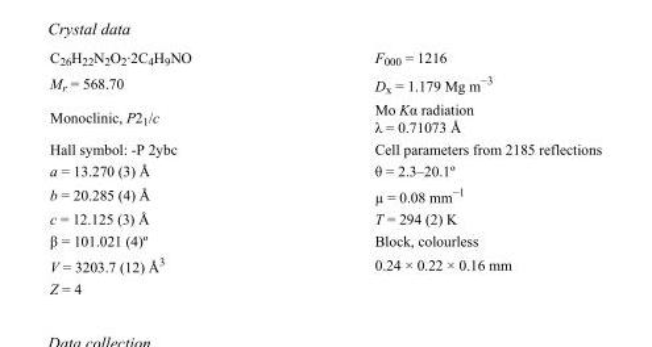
<table><tbody><tr><td>C<sub>26</sub>H<sub>22</sub>N<sub>2</sub>O<sub>2</sub>·2C<sub>4</sub>H<sub>9</sub>NO</td><td>F<sub>000</sub> = 1216</td></tr><tr><td>M<sub>r</sub> = 568.70</td><td>D<sub>x</sub> = 1.179 Mg m<sup>−3</sup></td></tr><tr><td>Monoclinic, P2<sub>1</sub>/c</td><td>Mo Kα radiation λ = 0.71073 Å</td></tr><tr><td>Hall symbol: -P 2ybc</td><td>Cell parameters from 2185 reflections</td></tr><tr><td>a = 13.270 (3) Å</td><td>θ = 2.3–20.1º</td></tr><tr><td>b = 20.285 (4) Å</td><td>µ = 0.08 mm<sup>−1</sup></td></tr><tr><td>c = 12.125 (3) Å</td><td>T = 294 (2) K</td></tr><tr><td>β = 101.021 (4)º</td><td>Block, colourless</td></tr><tr><td>V = 3203.7 (12) Å<sup>3</sup></td><td>0.24 × 0.22 × 0.16 mm</td></tr><tr><td>Z = 4</td><td></td></tr></tbody></table>